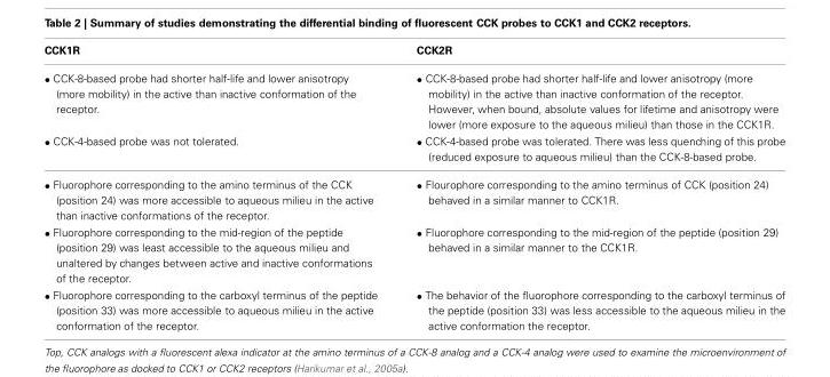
<table><thead><tr><td>CCK1R</td><td>CCK2R</td></tr></thead><tbody><tr><td>• CCK-8-based probe had shorter half-life and lower anisotropy (more mobility) in the active than inactive conformation of the receptor. • CCK-4-based probe was not tolerated.</td><td>• CCK-8-based probe had shorter half-life and lower anisotropy (more mobility) in the active than inactive conformation of the receptor. However, when bound, absolute values for lifetime and anisotropy were lower (more exposure to the aqueous milieu) than those in the CCK1R. • CCK-4-based probe was tolerated. There was less quenching of this probe (reduced exposure to aqueous milieu) than the CCK-8-based probe.</td></tr><tr><td>• Fluorophore corresponding to the amino terminus of the CCK (position 24) was more accessible to aqueous milieu in the active than inactive conformations of the receptor. • Fluorophore corresponding to the mid-region of the peptide (position 29) was least accessible to the aqueous milieu and unaltered by changes between active and inactive conformations of the receptor. • Fluorophore corresponding to the carboxyl terminus of the peptide (position 33) was more accessible to aqueous milieu in the active conformation of the receptor.</td><td>• Flourophore corresponding to the amino terminus of CCK (position 24) behaved in a similar manner to CCK1R. • Fluorophore corresponding to the mid-region of the peptide (position 29) behaved in a similar manner to the CCK1R. • The behavior of the fluorophore corresponding to the carboxyl terminus of the peptide (position 33) was less accessible to the aqueous milieu in the active conformation the receptor.</td></tr></tbody></table>